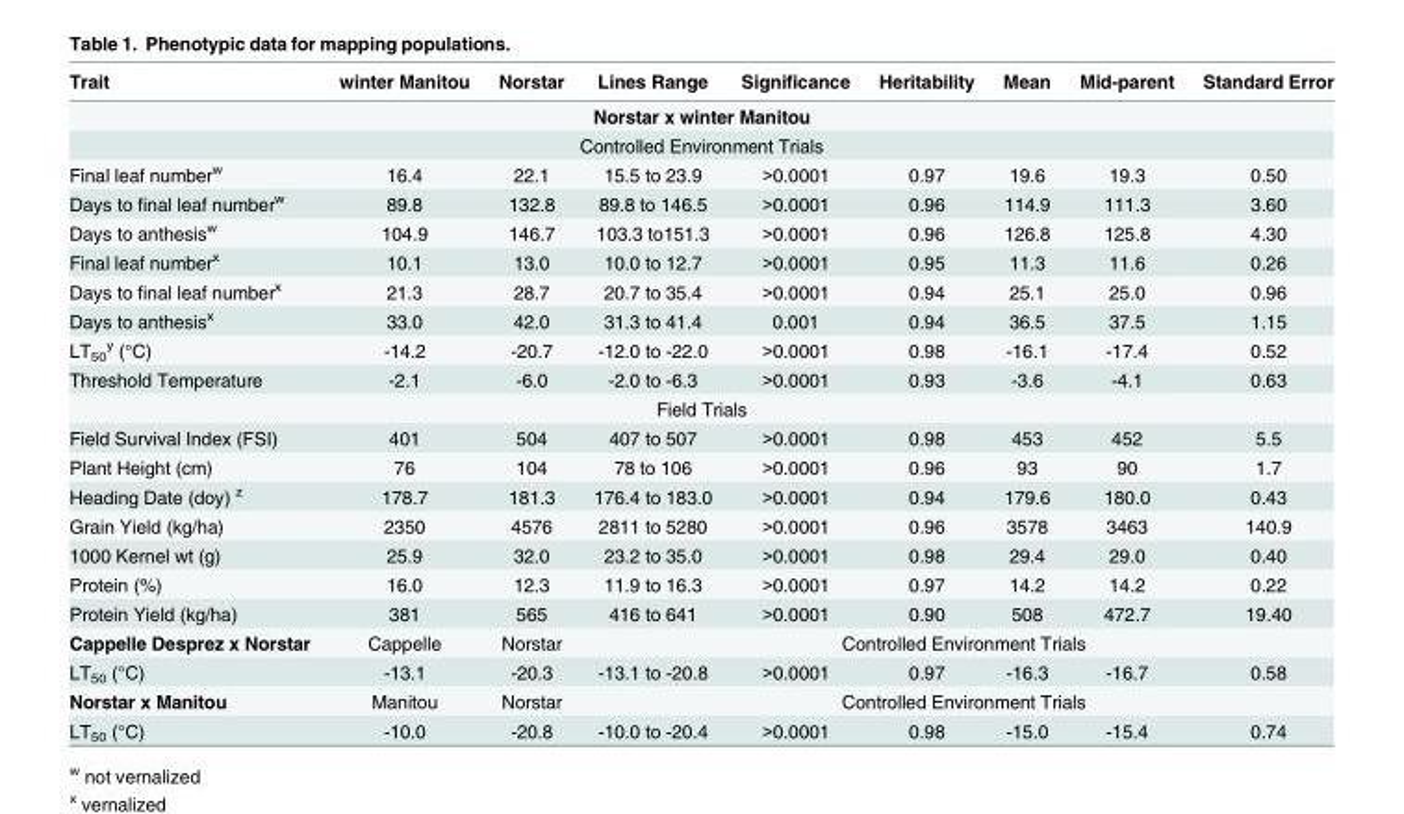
<table><thead><tr><td>Trait</td><td>winter Manitou</td><td>Norstar</td><td>Lines Range</td><td>Significance</td><td>Heritability</td><td>Mean</td><td>Mid-parent</td><td>Standard Error</td></tr></thead><tbody><tr><td colspan="9">Norstar x winter Manitou</td></tr><tr><td colspan="9">Controlled Environment Trials</td></tr><tr><td>Final leaf number<sup>w</sup></td><td>16.4</td><td>22.1</td><td>15.5 to 23.9</td><td>&gt;0.0001</td><td>0.97</td><td>19.6</td><td>19.3</td><td>0.50</td></tr><tr><td>Days to final leaf number<sup>w</sup></td><td>89.8</td><td>132.8</td><td>89.8 to 146.5</td><td>&gt;0.0001</td><td>0.96</td><td>114.9</td><td>111.3</td><td>3.60</td></tr><tr><td>Days to anthesis<sup>w</sup></td><td>104.9</td><td>146.7</td><td>103.3 to151.3</td><td>&gt;0.0001</td><td>0.96</td><td>126.8</td><td>125.8</td><td>4.30</td></tr><tr><td>Final leaf number<sup>x</sup></td><td>10.1</td><td>13.0</td><td>10.0 to 12.7</td><td>&gt;0.0001</td><td>0.95</td><td>11.3</td><td>11.6</td><td>0.26</td></tr><tr><td>Days to final leaf number<sup>x</sup></td><td>21.3</td><td>28.7</td><td>20.7 to 35.4</td><td>&gt;0.0001</td><td>0.94</td><td>25.1</td><td>25.0</td><td>0.96</td></tr><tr><td>Days to anthesis<sup>x</sup></td><td>33.0</td><td>42.0</td><td>31.3 to 41.4</td><td>0.001</td><td>0.94</td><td>36.5</td><td>37.5</td><td>1.15</td></tr><tr><td>LT<sub>50</sub> <sup>y</sup> (°C)</td><td>-14.2</td><td>-20.7</td><td>-12.0 to -22.0</td><td>&gt;0.0001</td><td>0.98</td><td>-16.1</td><td>-17.4</td><td>0.52</td></tr><tr><td>Threshold Temperature</td><td>-2.1</td><td>-6.0</td><td>-2.0 to -6.3</td><td>&gt;0.0001</td><td>0.93</td><td>-3.6</td><td>-4.1</td><td>0.63</td></tr><tr><td colspan="9">Field Trials</td></tr><tr><td>Field Survival Index (FSI)</td><td>401</td><td>504</td><td>407 to 507</td><td>&gt;0.0001</td><td>0.98</td><td>453</td><td>452</td><td>5.5</td></tr><tr><td>Plant Height (cm)</td><td>76</td><td>104</td><td>78 to 106</td><td>&gt;0.0001</td><td>0.96</td><td>93</td><td>90</td><td>1.7</td></tr><tr><td>Heading Date (doy) <sup>z</sup></td><td>178.7</td><td>181.3</td><td>176.4 to 183.0</td><td>&gt;0.0001</td><td>0.94</td><td>179.6</td><td>180.0</td><td>0.43</td></tr><tr><td>Grain Yield (kg/ha)</td><td>2350</td><td>4576</td><td>2811 to 5280</td><td>&gt;0.0001</td><td>0.96</td><td>3578</td><td>3463</td><td>140.9</td></tr><tr><td>1000 Kernel wt (g)</td><td>25.9</td><td>32.0</td><td>23.2 to 35.0</td><td>&gt;0.0001</td><td>0.98</td><td>29.4</td><td>29.0</td><td>0.40</td></tr><tr><td>Protein (%)</td><td>16.0</td><td>12.3</td><td>11.9 to 16.3</td><td>&gt;0.0001</td><td>0.97</td><td>14.2</td><td>14.2</td><td>0.22</td></tr><tr><td>Protein Yield (kg/ha)</td><td>381</td><td>565</td><td>416 to 641</td><td>&gt;0.0001</td><td>0.90</td><td>508</td><td>472.7</td><td>19.40</td></tr><tr><td>Cappelle Desprez x Norstar</td><td>Cappelle</td><td>Norstar</td><td colspan="6">Controlled Environment Trials</td></tr><tr><td>LT<sub>50</sub> (°C)</td><td>-13.1</td><td>-20.3</td><td>-13.1 to -20.8</td><td>&gt;0.0001</td><td>0.97</td><td>-16.3</td><td>-16.7</td><td>0.58</td></tr><tr><td>Norstar x Manitou</td><td>Manitou</td><td>Norstar</td><td colspan="6">Controlled Environment Trials</td></tr><tr><td>LT<sub>50</sub> (°C)</td><td>-10.0</td><td>-20.8</td><td>-10.0 to -20.4</td><td>&gt;0.0001</td><td>0.98</td><td>-15.0</td><td>-15.4</td><td>0.74</td></tr></tbody></table>